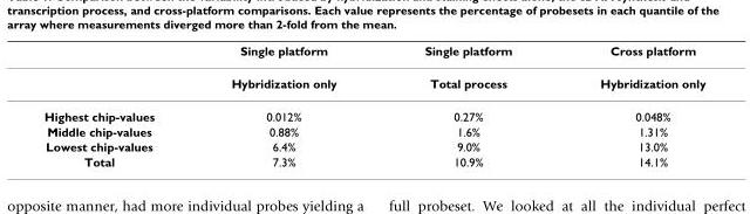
<table><thead><tr><td></td><td>Single platform</td><td>Single platform</td><td>Cross platform</td></tr></thead><tbody><tr><td></td><td>Hybridization only</td><td>Total process</td><td>Hybridization only</td></tr><tr><td>Highest chip-values</td><td>0.012%</td><td>0.27%</td><td>0.048%</td></tr><tr><td>Middle chip-values</td><td>0.88%</td><td>1.6%</td><td>1.31%</td></tr><tr><td>Lowest chip-values</td><td>6.4%</td><td>9.0%</td><td>13.0%</td></tr><tr><td>Total</td><td>7.3%</td><td>10.9%</td><td>14.1%</td></tr></tbody></table>